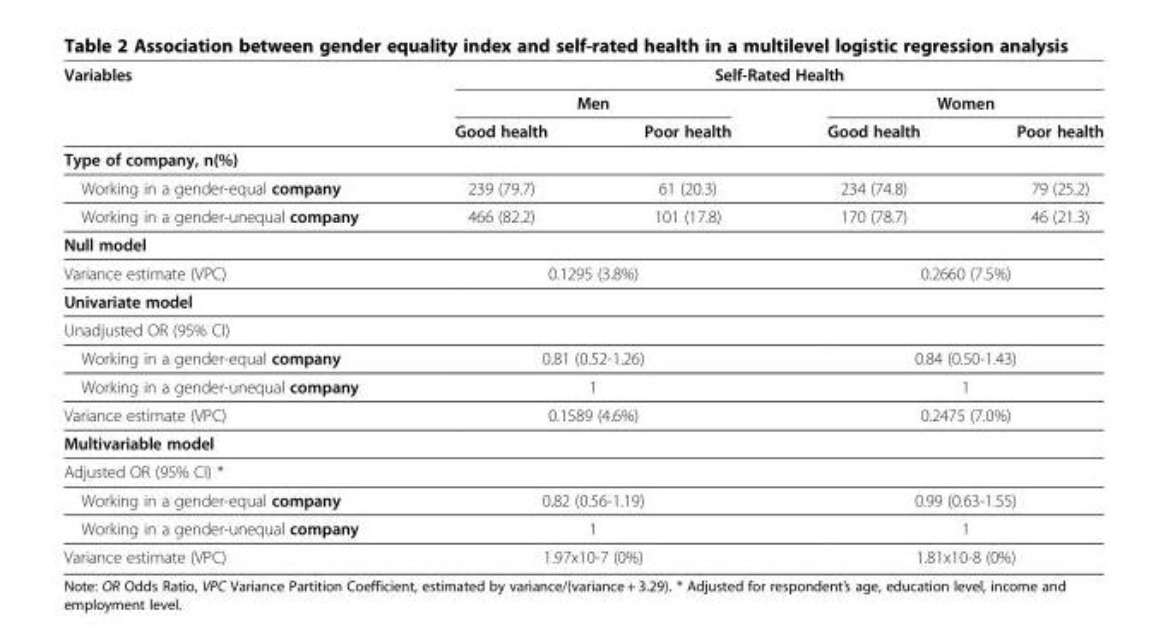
<table><thead><tr><td rowspan="3">Variables</td><td colspan="4">Self-Rated Health</td></tr><tr><td colspan="2">Men</td><td colspan="2">Women</td></tr><tr><td>Good health</td><td>Poor health</td><td>Good health</td><td>Poor health</td></tr></thead><tbody><tr><td colspan="5">Type of company, n(%)</td></tr><tr><td>Working in a gender-equal company</td><td>239 (79.7)</td><td>61 (20.3)</td><td>234 (74.8)</td><td>79 (25.2)</td></tr><tr><td>Working in a gender-unequal company</td><td>466 (82.2)</td><td>101 (17.8)</td><td>170 (78.7)</td><td>46 (21.3)</td></tr><tr><td colspan="5">Null model</td></tr><tr><td>Variance estimate (VPC)</td><td colspan="2">0.1295 (3.8%)</td><td colspan="2">0.2660 (7.5%)</td></tr><tr><td colspan="5">Univariate model</td></tr><tr><td colspan="5">Unadjusted OR (95% CI)</td></tr><tr><td>Working in a gender-equal company</td><td colspan="2">0.81 (0.52-1.26)</td><td colspan="2">0.84 (0.50-1.43)</td></tr><tr><td>Working in a gender-unequal company</td><td colspan="2">1</td><td colspan="2">1</td></tr><tr><td>Variance estimate (VPC)</td><td colspan="2">0.1589 (4.6%)</td><td colspan="2">0.2475 (7.0%)</td></tr><tr><td colspan="5">Multivariable model</td></tr><tr><td colspan="5">Adjusted OR (95% CI) *</td></tr><tr><td>Working in a gender-equal company</td><td colspan="2">0.82 (0.56-1.19)</td><td colspan="2">0.99 (0.63-1.55)</td></tr><tr><td>Working in a gender-unequal company</td><td colspan="2">1</td><td colspan="2">1</td></tr><tr><td>Variance estimate (VPC)</td><td colspan="2">1.97x10-7 (0%)</td><td colspan="2">1.81x10-8 (0%)</td></tr></tbody></table>